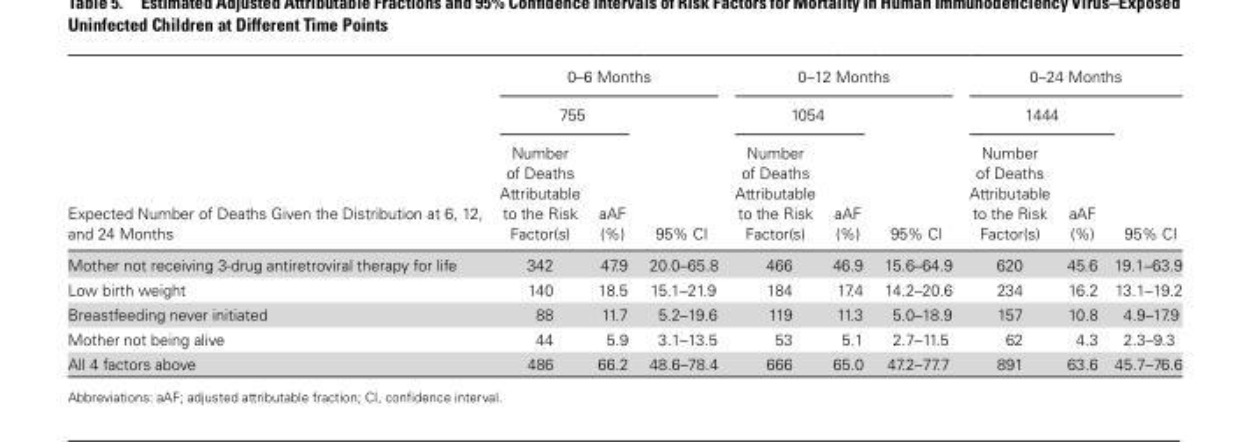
<table><thead><tr><td rowspan="3">Expected Number of Deaths Given the Distribution at 6, 12, and 24 Months</td><td colspan="3">0–6 Months</td><td colspan="3">0–12 Months</td><td colspan="3">0–24 Months</td></tr><tr><td colspan="2">755</td><td rowspan="2">95% CI</td><td colspan="2">1054</td><td rowspan="2">95% CI</td><td colspan="2">1444</td><td rowspan="2">95% CI</td></tr><tr><td>Number of Deaths Attributable to the Risk Factor(s)</td><td>aAF (%)</td><td>Number of Deaths Attributable to the Risk Factor(s)</td><td>aAF (%)</td><td>Number of Deaths Attributable to the Risk Factor(s)</td><td>aAF (%)</td></tr></thead><tbody><tr><td>Mother not receiving 3-drug antiretroviral therapy for life</td><td>342</td><td>47.9</td><td>20.0–65.8</td><td>466</td><td>46.9</td><td>15.6–64.9</td><td>620</td><td>45.6</td><td>19.1–63.9</td></tr><tr><td>Low birth weight</td><td>140</td><td>18.5</td><td>15.1–21.9</td><td>184</td><td>17.4</td><td>14.2–20.6</td><td>234</td><td>16.2</td><td>13.1–19.2</td></tr><tr><td>Breastfeeding never initiated</td><td>88</td><td>11.7</td><td>5.2–19.6</td><td>119</td><td>11.3</td><td>5.0–18.9</td><td>157</td><td>10.8</td><td>4.9–17.9</td></tr><tr><td>Mother not being alive</td><td>44</td><td>5.9</td><td>3.1–13.5</td><td>53</td><td>5.1</td><td>2.7–11.5</td><td>62</td><td>4.3</td><td>2.3–9.3</td></tr><tr><td>All 4 factors above</td><td>486</td><td>66.2</td><td>48.6–78.4</td><td>666</td><td>65.0</td><td>47.2–77.7</td><td>891</td><td>63.6</td><td>45.7–76.6</td></tr></tbody></table>